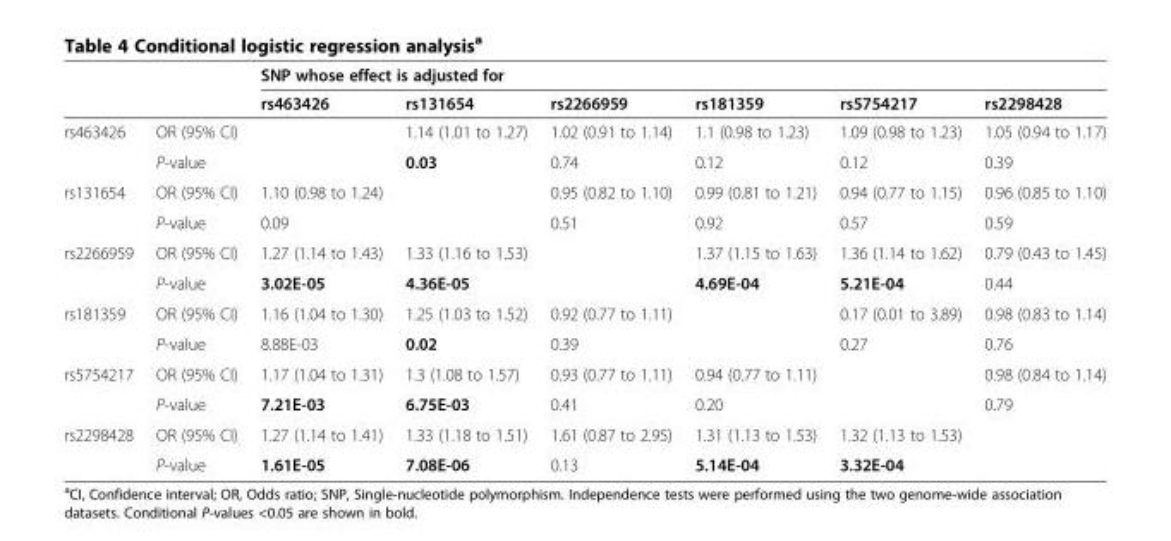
<table><thead><tr><td rowspan="2"></td><td rowspan="2"></td><td colspan="6">SNP whose effect is adjusted for</td></tr><tr><td>rs463426</td><td>rs131654</td><td>rs2266959</td><td>rs181359</td><td>rs5754217</td><td>rs2298428</td></tr></thead><tbody><tr><td rowspan="2">rs463426</td><td>OR (95% CI)</td><td rowspan="2"></td><td>1.14 (1.01 to 1.27)</td><td>1.02 (0.91 to 1.14)</td><td>1.1 (0.98 to 1.23)</td><td>1.09 (0.98 to 1.23)</td><td>1.05 (0.94 to 1.17)</td></tr><tr><td>P-value</td><td>0.03</td><td>0.74</td><td>0.12</td><td>0.12</td><td>0.39</td></tr><tr><td rowspan="2">rs131654</td><td>OR (95% CI)</td><td>1.10 (0.98 to 1.24)</td><td rowspan="2"></td><td>0.95 (0.82 to 1.10)</td><td>0.99 (0.81 to 1.21)</td><td>0.94 (0.77 to 1.15)</td><td>0.96 (0.85 to 1.10)</td></tr><tr><td>P-value</td><td>0.09</td><td>0.51</td><td>0.92</td><td>0.57</td><td>0.59</td></tr><tr><td rowspan="2">rs2266959</td><td>OR (95% CI)</td><td>1.27 (1.14 to 1.43)</td><td>1.33 (1.16 to 1.53)</td><td rowspan="2"></td><td>1.37 (1.15 to 1.63)</td><td>1.36 (1.14 to 1.62)</td><td>0.79 (0.43 to 1.45)</td></tr><tr><td>P-value</td><td>3.02E-05</td><td>4.36E-05</td><td>4.69E-04</td><td>5.21E-04</td><td>0.44</td></tr><tr><td rowspan="2">rs181359</td><td>OR (95% CI)</td><td>1.16 (1.04 to 1.30)</td><td>1.25 (1.03 to 1.52)</td><td>0.92 (0.77 to 1.11)</td><td rowspan="2"></td><td>0.17 (0.01 to 3.89)</td><td>0.98 (0.83 to 1.14)</td></tr><tr><td>P-value</td><td>8.88E-03</td><td>0.02</td><td>0.39</td><td>0.27</td><td>0.76</td></tr><tr><td rowspan="2">rs5754217</td><td>OR (95% CI)</td><td>1.17 (1.04 to 1.31)</td><td>1.3 (1.08 to 1.57)</td><td>0.93 (0.77 to 1.11)</td><td>0.94 (0.77 to 1.11)</td><td rowspan="2"></td><td>0.98 (0.84 to 1.14)</td></tr><tr><td>P-value</td><td>7.21E-03</td><td>6.75E-03</td><td>0.41</td><td>0.20</td><td>0.79</td></tr><tr><td rowspan="2">rs2298428</td><td>OR (95% CI)</td><td>1.27 (1.14 to 1.41)</td><td>1.33 (1.18 to 1.51)</td><td>1.61 (0.87 to 2.95)</td><td>1.31 (1.13 to 1.53)</td><td>1.32 (1.13 to 1.53)</td><td rowspan="2"></td></tr><tr><td>P-value</td><td>1.61E-05</td><td>7.08E-06</td><td>0.13</td><td>5.14E-04</td><td>3.32E-04</td></tr></tbody></table>